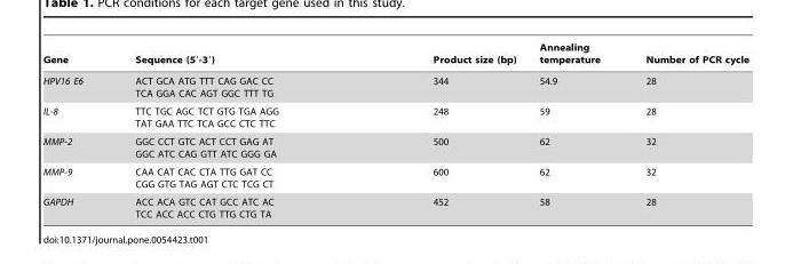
<table><thead><tr><td>Gene</td><td>Sequence (5′-3′)</td><td>Product size (bp)</td><td>Annealing temperature</td><td>Number of PCR cycle</td></tr></thead><tbody><tr><td>HPV16 E6</td><td>ACT GCA ATG TTT CAG GAC CC TCA GGA CAC AGT GGC TTT TG</td><td>344</td><td>54.9</td><td>28</td></tr><tr><td>IL-8</td><td>TTC TGC AGC TCT GTG TGA AGG TAT GAA TTC TCA GCC CTC TTC</td><td>248</td><td>59</td><td>28</td></tr><tr><td>MMP-2</td><td>GGC CCT GTC ACT CCT GAG AT GGC ATC CAG GTT ATC GGG GA</td><td>500</td><td>62</td><td>32</td></tr><tr><td>MMP-9</td><td>CAA CAT CAC CTA TTG GAT CC CGG GTG TAG AGT CTC TCG CT</td><td>600</td><td>62</td><td>32</td></tr><tr><td>GAPDH</td><td>ACC ACA GTC CAT GCC ATC AC TCC ACC ACC CTG TTG CTG TA</td><td>452</td><td>58</td><td>28</td></tr></tbody></table>